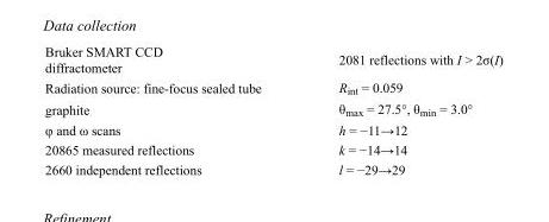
<table><tbody><tr><td>Bruker SMART CCD diffractometer</td><td>2081 reflections with I &gt; 2σ(I)</td></tr><tr><td>Radiation source: fine-focus sealed tube</td><td>R<sub>int</sub> = 0.059</td></tr><tr><td>graphite</td><td>θ<sub>max</sub> = 27.5°, θ<sub>min</sub> = 3.0°</td></tr><tr><td>φ and ω scans</td><td>h = −11→12</td></tr><tr><td>20865 measured reflections</td><td>k = −14→14</td></tr><tr><td>2660 independent reflections</td><td>l = −29→29</td></tr></tbody></table>